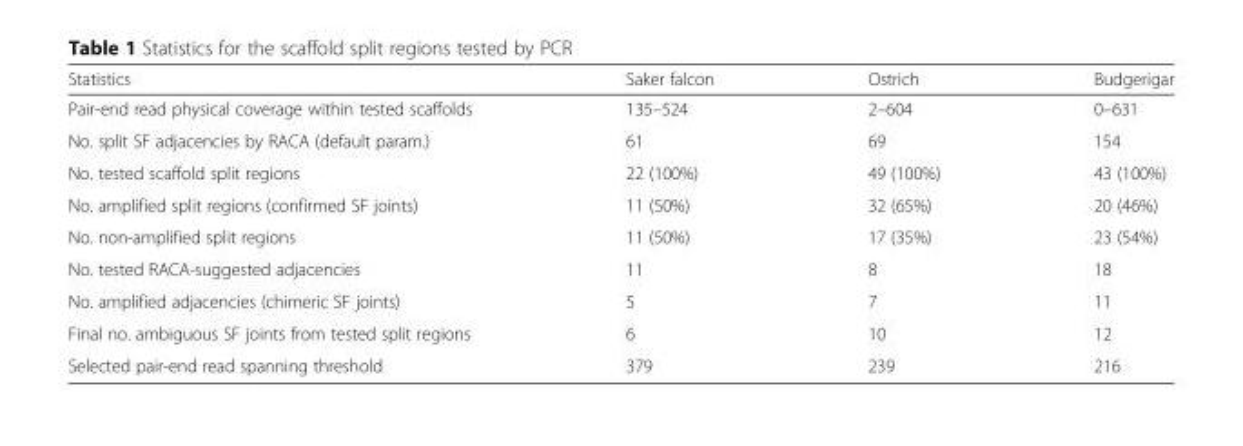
<table><thead><tr><td>Statistics</td><td>Saker falcon</td><td>Ostrich</td><td>Budgerigar</td></tr></thead><tbody><tr><td>Pair-end read physical coverage within tested scaffolds</td><td>135–524</td><td>2–604</td><td>0–631</td></tr><tr><td>No. split SF adjacencies by RACA (default param.)</td><td>61</td><td>69</td><td>154</td></tr><tr><td>No. tested scaffold split regions</td><td>22 (100%)</td><td>49 (100%)</td><td>43 (100%)</td></tr><tr><td>No. amplified split regions (confirmed SF joints)</td><td>11 (50%)</td><td>32 (65%)</td><td>20 (46%)</td></tr><tr><td>No. non-amplified split regions</td><td>11 (50%)</td><td>17 (35%)</td><td>23 (54%)</td></tr><tr><td>No. tested RACA-suggested adjacencies</td><td>11</td><td>8</td><td>18</td></tr><tr><td>No. amplified adjacencies (chimeric SF joints)</td><td>5</td><td>7</td><td>11</td></tr><tr><td>Final no. ambiguous SF joints from tested split regions</td><td>6</td><td>10</td><td>12</td></tr><tr><td>Selected pair-end read spanning threshold</td><td>379</td><td>239</td><td>216</td></tr></tbody></table>